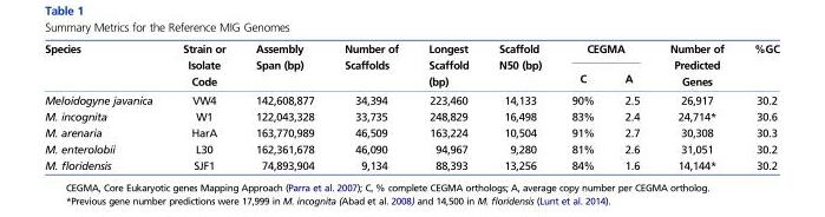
<table><thead><tr><td rowspan="2">Species</td><td rowspan="2">Strain or Isolate Code</td><td rowspan="2">Assembly Span (bp)</td><td rowspan="2">Number of Scaffolds</td><td rowspan="2">Longest Scaffold (bp)</td><td rowspan="2">Scaffold N50 (bp)</td><td colspan="2">CEGMA</td><td rowspan="2">Number of Predicted Genes</td><td rowspan="2">%GC</td></tr><tr><td>C</td><td>A</td></tr></thead><tbody><tr><td>Meloidogyne javanica</td><td>VW4</td><td>142,608,877</td><td>34,394</td><td>223,460</td><td>14,133</td><td>90%</td><td>2.5</td><td>26,917</td><td>30.2</td></tr><tr><td>M. incognita</td><td>W1</td><td>122,043,328</td><td>33,735</td><td>248,829</td><td>16,498</td><td>83%</td><td>2.4</td><td>24,714*</td><td>30.6</td></tr><tr><td>M. arenaria</td><td>HarA</td><td>163,770,989</td><td>46,509</td><td>163,224</td><td>10,504</td><td>91%</td><td>2.7</td><td>30,308</td><td>30.3</td></tr><tr><td>M. enterolobii</td><td>L30</td><td>162,361,678</td><td>46,090</td><td>94,967</td><td>9,280</td><td>81%</td><td>2.6</td><td>31,051</td><td>30.2</td></tr><tr><td>M. floridensis</td><td>SJF1</td><td>74,893,904</td><td>9,134</td><td>88,393</td><td>13,256</td><td>84%</td><td>1.6</td><td>14,144*</td><td>30.2</td></tr></tbody></table>